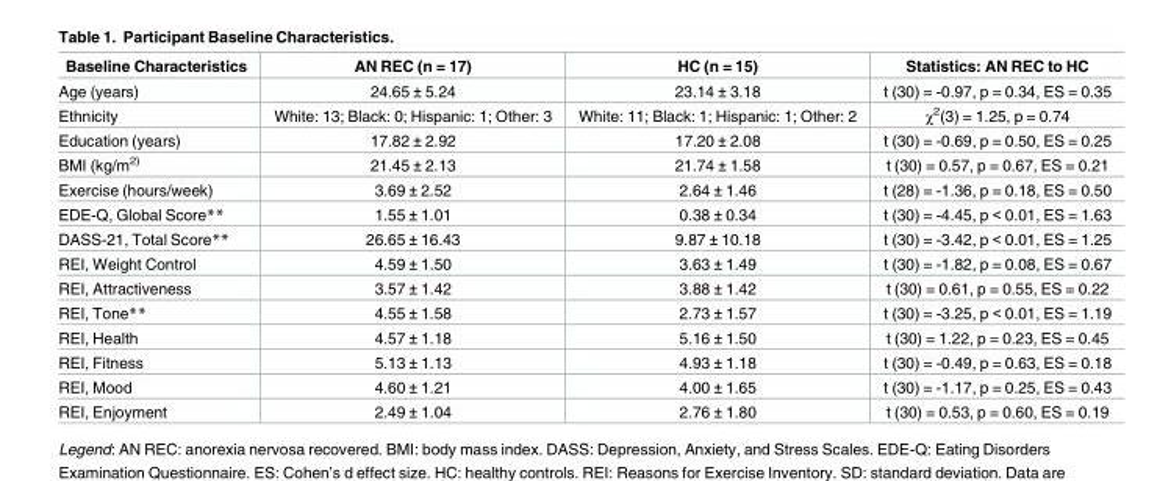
<table><thead><tr><td>Baseline Characteristics</td><td>AN REC (n = 17)</td><td>HC (n = 15)</td><td>Statistics: AN REC to HC</td></tr></thead><tbody><tr><td>Age (years)</td><td>24.65 ± 5.24</td><td>23.14 ± 3.18</td><td>t (30) = -0.97, p = 0.34, ES = 0.35</td></tr><tr><td>Ethnicity</td><td>White: 13; Black: 0; Hispanic: 1; Other: 3</td><td>White: 11; Black: 1; Hispanic: 1; Other: 2</td><td>χ<sup>2</sup>(3) = 1.25, p = 0.74</td></tr><tr><td>Education (years)</td><td>17.82 ± 2.92</td><td>17.20 ± 2.08</td><td>t (30) = -0.69, p = 0.50, ES = 0.25</td></tr><tr><td>BMI (kg/m<sup>2)</sup></td><td>21.45 ± 2.13</td><td>21.74 ± 1.58</td><td>t (30) = 0.57, p = 0.67, ES = 0.21</td></tr><tr><td>Exercise (hours/week)</td><td>3.69 ± 2.52</td><td>2.64 ± 1.46</td><td>t (28) = -1.36, p = 0.18, ES = 0.50</td></tr><tr><td>EDE-Q, Global Score**</td><td>1.55 ± 1.01</td><td>0.38 ± 0.34</td><td>t (30) = -4.45, p &lt; 0.01, ES = 1.63</td></tr><tr><td>DASS-21, Total Score**</td><td>26.65 ± 16.43</td><td>9.87 ± 10.18</td><td>t (30) = -3.42, p &lt; 0.01, ES = 1.25</td></tr><tr><td>REI, Weight Control</td><td>4.59 ± 1.50</td><td>3.63 ± 1.49</td><td>t (30) = -1.82, p = 0.08, ES = 0.67</td></tr><tr><td>REI, Attractiveness</td><td>3.57 ± 1.42</td><td>3.88 ± 1.42</td><td>t (30) = 0.61, p = 0.55, ES = 0.22</td></tr><tr><td>REI, Tone**</td><td>4.55 ± 1.58</td><td>2.73 ± 1.57</td><td>t (30) = -3.25, p &lt; 0.01, ES = 1.19</td></tr><tr><td>REI, Health</td><td>4.57 ± 1.18</td><td>5.16 ± 1.50</td><td>t (30) = 1.22, p = 0.23, ES = 0.45</td></tr><tr><td>REI, Fitness</td><td>5.13 ± 1.13</td><td>4.93 ± 1.18</td><td>t (30) = -0.49, p = 0.63, ES = 0.18</td></tr><tr><td>REI, Mood</td><td>4.60 ± 1.21</td><td>4.00 ± 1.65</td><td>t (30) = -1.17, p = 0.25, ES = 0.43</td></tr><tr><td>REI, Enjoyment</td><td>2.49 ± 1.04</td><td>2.76 ± 1.80</td><td>t (30) = 0.53, p = 0.60, ES = 0.19</td></tr></tbody></table>